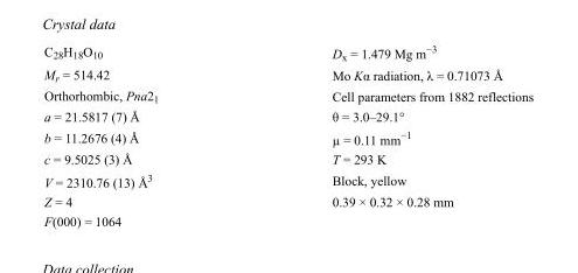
<table><tbody><tr><td>C<sub>28</sub>H<sub>18</sub>O<sub>10</sub></td><td>D<sub>x</sub> = 1.479 Mg m<sup>−3</sup></td></tr><tr><td>M<sub>r</sub> = 514.42</td><td>Mo Kα radiation, λ = 0.71073 Å</td></tr><tr><td>Orthorhombic, Pna2<sub>1</sub></td><td>Cell parameters from 1882 reflections</td></tr><tr><td>a = 21.5817 (7) Å</td><td>θ = 3.0–29.1°</td></tr><tr><td>b = 11.2676 (4) Å</td><td>µ = 0.11 mm<sup>−1</sup></td></tr><tr><td>c = 9.5025 (3) Å</td><td>T = 293 K</td></tr><tr><td>V = 2310.76 (13) Å<sup>3</sup></td><td>Block, yellow</td></tr><tr><td>Z = 4</td><td>0.39 × 0.32 × 0.28 mm</td></tr><tr><td>F(000) = 1064</td><td></td></tr></tbody></table>